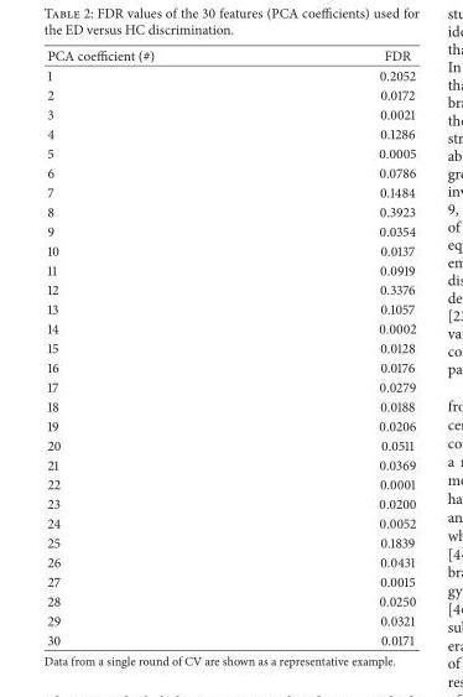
<table><thead><tr><td>PCA coefficient (#)</td><td>FDR</td></tr></thead><tbody><tr><td>1</td><td>0.2052</td></tr><tr><td>2</td><td>0.0172</td></tr><tr><td>3</td><td>0.0021</td></tr><tr><td>4</td><td>0.1286</td></tr><tr><td>5</td><td>0.0005</td></tr><tr><td>6</td><td>0.0786</td></tr><tr><td>7</td><td>0.1484</td></tr><tr><td>8</td><td>0.3923</td></tr><tr><td>9</td><td>0.0354</td></tr><tr><td>10</td><td>0.0137</td></tr><tr><td>11</td><td>0.0919</td></tr><tr><td>12</td><td>0.3376</td></tr><tr><td>13</td><td>0.1057</td></tr><tr><td>14</td><td>0.0002</td></tr><tr><td>15</td><td>0.0128</td></tr><tr><td>16</td><td>0.0176</td></tr><tr><td>17</td><td>0.0279</td></tr><tr><td>18</td><td>0.0188</td></tr><tr><td>19</td><td>0.0206</td></tr><tr><td>20</td><td>0.0511</td></tr><tr><td>21</td><td>0.0369</td></tr><tr><td>22</td><td>0.0001</td></tr><tr><td>23</td><td>0.0200</td></tr><tr><td>24</td><td>0.0052</td></tr><tr><td>25</td><td>0.1839</td></tr><tr><td>26</td><td>0.0431</td></tr><tr><td>27</td><td>0.0015</td></tr><tr><td>28</td><td>0.0250</td></tr><tr><td>29</td><td>0.0321</td></tr><tr><td>30</td><td>0.0171</td></tr></tbody></table>